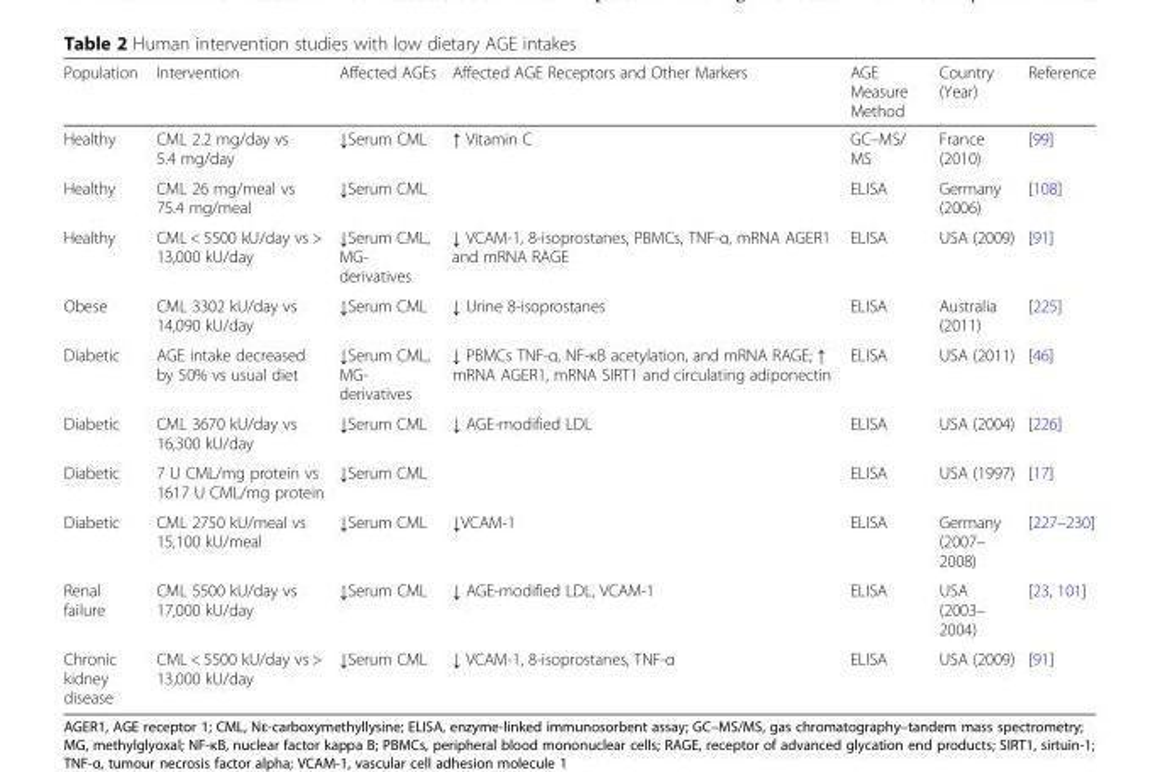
<table><thead><tr><td>Population</td><td>Intervention</td><td>Affected AGEs</td><td>Affected AGE Receptors and Other Markers</td><td>AGE Measure Method</td><td>Country (Year)</td><td>Reference</td></tr></thead><tbody><tr><td>Healthy</td><td>CML 2.2 mg/day vs 5.4 mg/day</td><td>↓Serum CML</td><td>↑ Vitamin C</td><td>GC–MS/ MS</td><td>France (2010)</td><td>[99]</td></tr><tr><td>Healthy</td><td>CML 26 mg/meal vs 75.4 mg/meal</td><td>↓Serum CML</td><td></td><td>ELISA</td><td>Germany (2006)</td><td>[108]</td></tr><tr><td>Healthy</td><td>CML &lt; 5500 kU/day vs &gt; 13,000 kU/day</td><td>↓Serum CML, MG- derivatives</td><td>↓ VCAM-1, 8-isoprostanes, PBMCs, TNF-α, mRNA AGER1 and mRNA RAGE</td><td>ELISA</td><td>USA (2009)</td><td>[91]</td></tr><tr><td>Obese</td><td>CML 3302 kU/day vs 14,090 kU/day</td><td>↓Serum CML</td><td>↓ Urine 8-isoprostanes</td><td>ELISA</td><td>Australia (2011)</td><td>[225]</td></tr><tr><td>Diabetic</td><td>AGE intake decreased by 50% vs usual diet</td><td>↓Serum CML, MG- derivatives</td><td>↓ PBMCs TNF-α, NF-κB acetylation, and mRNA RAGE; ↑ mRNA AGER1, mRNA SIRT1 and circulating adiponectin</td><td>ELISA</td><td>USA (2011)</td><td>[46]</td></tr><tr><td>Diabetic</td><td>CML 3670 kU/day vs 16,300 kU/day</td><td>↓Serum CML</td><td>↓ AGE-modified LDL</td><td>ELISA</td><td>USA (2004)</td><td>[226]</td></tr><tr><td>Diabetic</td><td>7 U CML/mg protein vs 1617 U CML/mg protein</td><td>↓Serum CML</td><td></td><td>ELISA</td><td>USA (1997)</td><td>[17]</td></tr><tr><td>Diabetic</td><td>CML 2750 kU/meal vs 15,100 kU/meal</td><td>↓Serum CML</td><td>↓VCAM-1</td><td>ELISA</td><td>Germany (2007– 2008)</td><td>[227–230]</td></tr><tr><td>Renal failure</td><td>CML 5500 kU/day vs 17,000 kU/day</td><td>↓Serum CML</td><td>↓ AGE-modified LDL, VCAM-1</td><td>ELISA</td><td>USA (2003– 2004)</td><td>[23, 101]</td></tr><tr><td>Chronic kidney disease</td><td>CML &lt; 5500 kU/day vs &gt; 13,000 kU/day</td><td>↓Serum CML</td><td>↓ VCAM-1, 8-isoprostanes, TNF-α</td><td>ELISA</td><td>USA (2009)</td><td>[91]</td></tr></tbody></table>